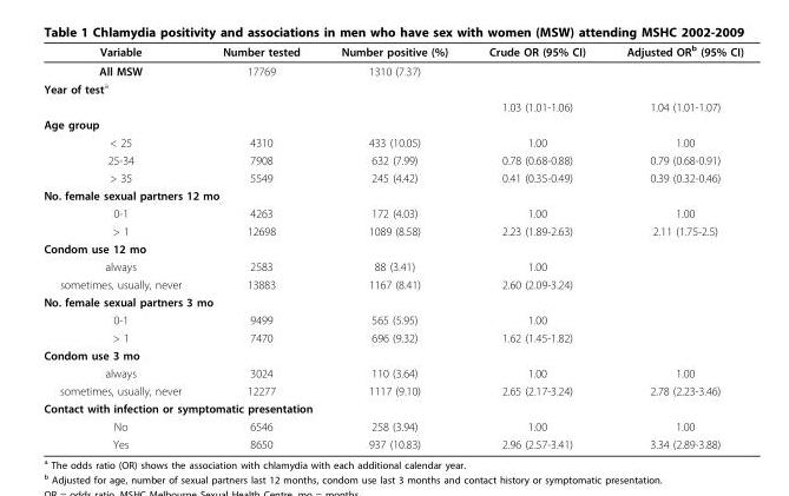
<table><thead><tr><td>Variable</td><td>Number tested</td><td>Number positive (%)</td><td>Crude OR (95% CI)</td><td>Adjusted OR<sup>b</sup> (95% CI)</td></tr></thead><tbody><tr><td>All MSW</td><td>17769</td><td>1310 (7.37)</td><td></td><td></td></tr><tr><td colspan="5">Year of test<sup>a</sup></td></tr><tr><td></td><td></td><td></td><td>1.03 (1.01-1.06)</td><td>1.04 (1.01-1.07)</td></tr><tr><td colspan="5">Age group</td></tr><tr><td>&lt; 25</td><td>4310</td><td>433 (10.05)</td><td>1.00</td><td>1.00</td></tr><tr><td>25-34</td><td>7908</td><td>632 (7.99)</td><td>0.78 (0.68-0.88)</td><td>0.79 (0.68-0.91)</td></tr><tr><td>&gt; 35</td><td>5549</td><td>245 (4.42)</td><td>0.41 (0.35-0.49)</td><td>0.39 (0.32-0.46)</td></tr><tr><td colspan="5">No. female sexual partners 12 mo</td></tr><tr><td>0-1</td><td>4263</td><td>172 (4.03)</td><td>1.00</td><td>1.00</td></tr><tr><td>&gt; 1</td><td>12698</td><td>1089 (8.58)</td><td>2.23 (1.89-2.63)</td><td>2.11 (1.75-2.5)</td></tr><tr><td colspan="5">Condom use 12 mo</td></tr><tr><td>always</td><td>2583</td><td>88 (3.41)</td><td>1.00</td><td></td></tr><tr><td>sometimes, usually, never</td><td>13883</td><td>1167 (8.41)</td><td>2.60 (2.09-3.24)</td><td></td></tr><tr><td colspan="5">No. female sexual partners 3 mo</td></tr><tr><td>0-1</td><td>9499</td><td>565 (5.95)</td><td>1.00</td><td></td></tr><tr><td>&gt; 1</td><td>7470</td><td>696 (9.32)</td><td>1.62 (1.45-1.82)</td><td></td></tr><tr><td colspan="5">Condom use 3 mo</td></tr><tr><td>always</td><td>3024</td><td>110 (3.64)</td><td>1.00</td><td>1.00</td></tr><tr><td>sometimes, usually, never</td><td>12277</td><td>1117 (9.10)</td><td>2.65 (2.17-3.24)</td><td>2.78 (2.23-3.46)</td></tr><tr><td colspan="5">Contact with infection or symptomatic presentation</td></tr><tr><td>No</td><td>6546</td><td>258 (3.94)</td><td>1.00</td><td>1.00</td></tr><tr><td>Yes</td><td>8650</td><td>937 (10.83)</td><td>2.96 (2.57-3.41)</td><td>3.34 (2.89-3.88)</td></tr></tbody></table>